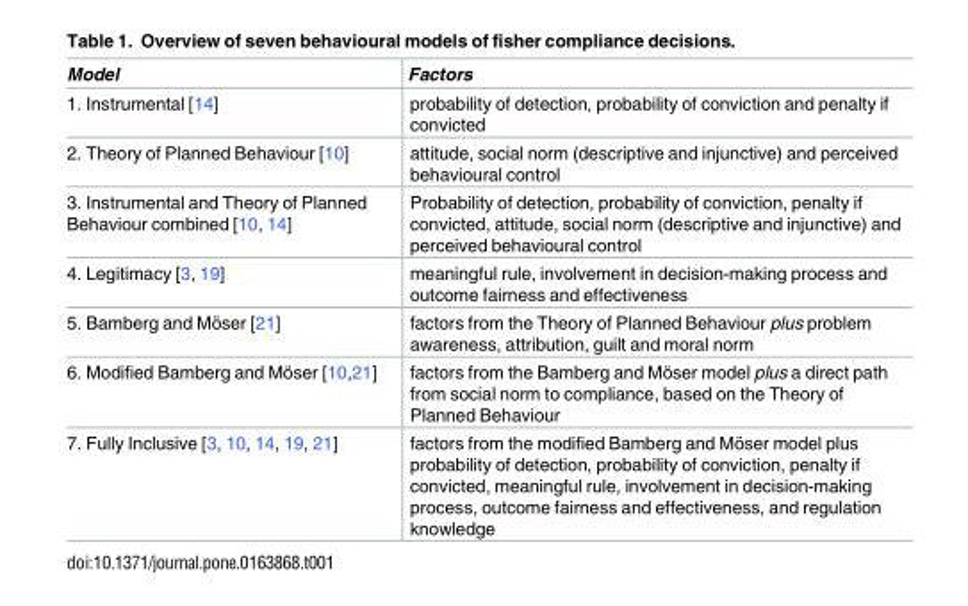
<table><thead><tr><td>Model</td><td>Factors</td></tr></thead><tbody><tr><td>1. Instrumental [14]</td><td>probability of detection, probability of conviction and penalty if convicted</td></tr><tr><td>2. Theory of Planned Behaviour [10]</td><td>attitude, social norm (descriptive and injunctive) and perceived behavioural control</td></tr><tr><td>3. Instrumental and Theory of Planned Behaviour combined [10, 14]</td><td>Probability of detection, probability of conviction, penalty if convicted, attitude, social norm (descriptive and injunctive) and perceived behavioural control</td></tr><tr><td>4. Legitimacy [3, 19]</td><td>meaningful rule, involvement in decision-making process and outcome fairness and effectiveness</td></tr><tr><td>5. Bamberg and Mo¨ser [21]</td><td>factors from the Theory of Planned Behaviour plus problem awareness, attribution, guilt and moral norm</td></tr><tr><td>6. Modified Bamberg and Mo¨ser [10,21]</td><td>factors from the Bamberg and Mo¨ser model plus a direct path from social norm to compliance, based on the Theory of Planned Behaviour</td></tr><tr><td>7. Fully Inclusive [3, 10, 14, 19, 21]</td><td>factors from the modified Bamberg and Mo¨ser model plus probability of detection, probability of conviction, penalty if convicted, meaningful rule, involvement in decision-making process, outcome fairness and effectiveness, and regulation knowledge</td></tr></tbody></table>